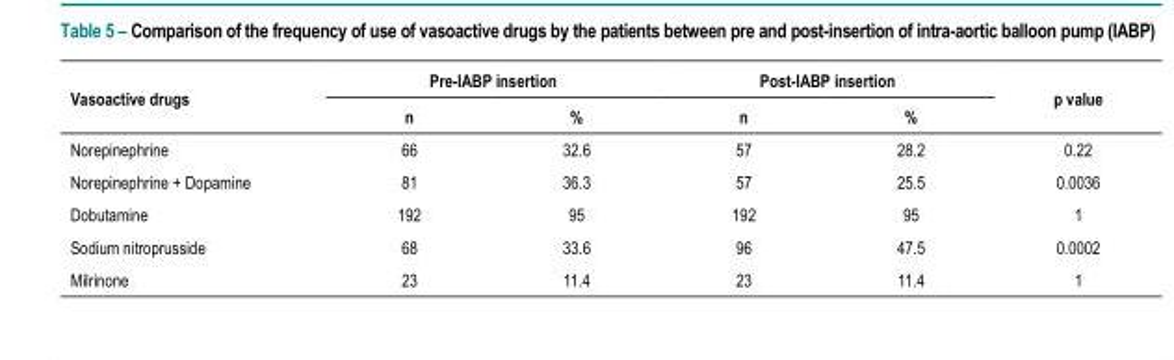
<table><thead><tr><td rowspan="2">Vasoactive drugs</td><td colspan="2">Pre-IABP insertion</td><td colspan="2">Post-IABP insertion</td><td rowspan="2">p value</td></tr><tr><td>n</td><td>%</td><td>n</td><td>%</td></tr></thead><tbody><tr><td>Norepinephrine</td><td>66</td><td>32.6</td><td>57</td><td>28.2</td><td>0.22</td></tr><tr><td>Norepinephrine + Dopamine</td><td>81</td><td>36.3</td><td>57</td><td>25.5</td><td>0.0036</td></tr><tr><td>Dobutamine</td><td>192</td><td>95</td><td>192</td><td>95</td><td>1</td></tr><tr><td>Sodium nitroprusside</td><td>68</td><td>33.6</td><td>96</td><td>47.5</td><td>0.0002</td></tr><tr><td>Milrinone</td><td>23</td><td>11.4</td><td>23</td><td>11.4</td><td>1</td></tr></tbody></table>